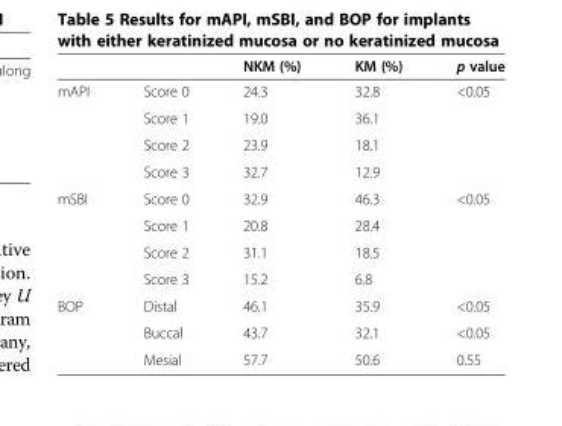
<table><thead><tr><td></td><td></td><td>NKM (%)</td><td>KM (%)</td><td>p value</td></tr></thead><tbody><tr><td rowspan="4">mAPI</td><td>Score 0</td><td>24.3</td><td>32.8</td><td rowspan="4">&lt;0.05</td></tr><tr><td>Score 1</td><td>19.0</td><td>36.1</td></tr><tr><td>Score 2</td><td>23.9</td><td>18.1</td></tr><tr><td>Score 3</td><td>32.7</td><td>12.9</td></tr><tr><td rowspan="4">mSBI</td><td>Score 0</td><td>32.9</td><td>46.3</td><td rowspan="4">&lt;0.05</td></tr><tr><td>Score 1</td><td>20.8</td><td>28.4</td></tr><tr><td>Score 2</td><td>31.1</td><td>18.5</td></tr><tr><td>Score 3</td><td>15.2</td><td>6.8</td></tr><tr><td rowspan="3">BOP</td><td>Distal</td><td>46.1</td><td>35.9</td><td>&lt;0.05</td></tr><tr><td>Buccal</td><td>43.7</td><td>32.1</td><td>&lt;0.05</td></tr><tr><td>Mesial</td><td>57.7</td><td>50.6</td><td>0.55</td></tr></tbody></table>